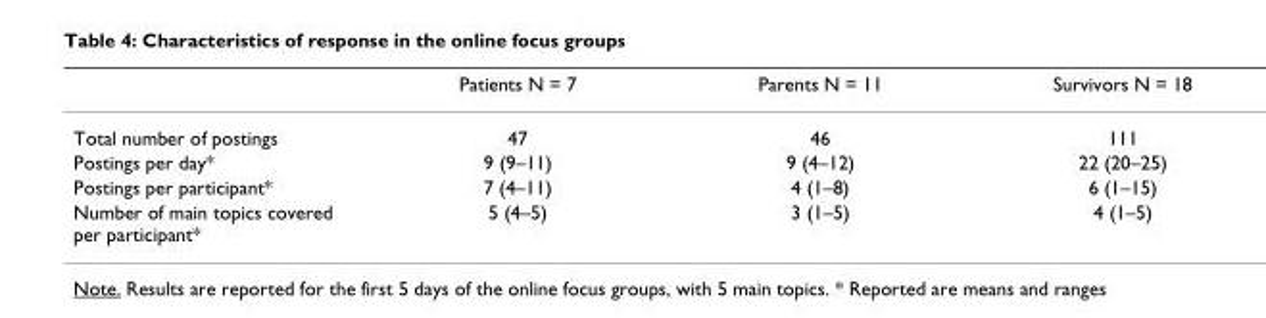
<table><thead><tr><td></td><td>Patients N = 7</td><td>Parents N = 11</td><td>Survivors N = 18</td></tr></thead><tbody><tr><td>Total number of postings</td><td>47</td><td>46</td><td>111</td></tr><tr><td>Postings per day*</td><td>9 (9–11)</td><td>9 (4–12)</td><td>22 (20–25)</td></tr><tr><td>Postings per participant*</td><td>7 (4–11)</td><td>4 (1–8)</td><td>6 (1–15)</td></tr><tr><td>Number of main topics covered per participant*</td><td>5 (4–5)</td><td>3 (1–5)</td><td>4 (1–5)</td></tr></tbody></table>